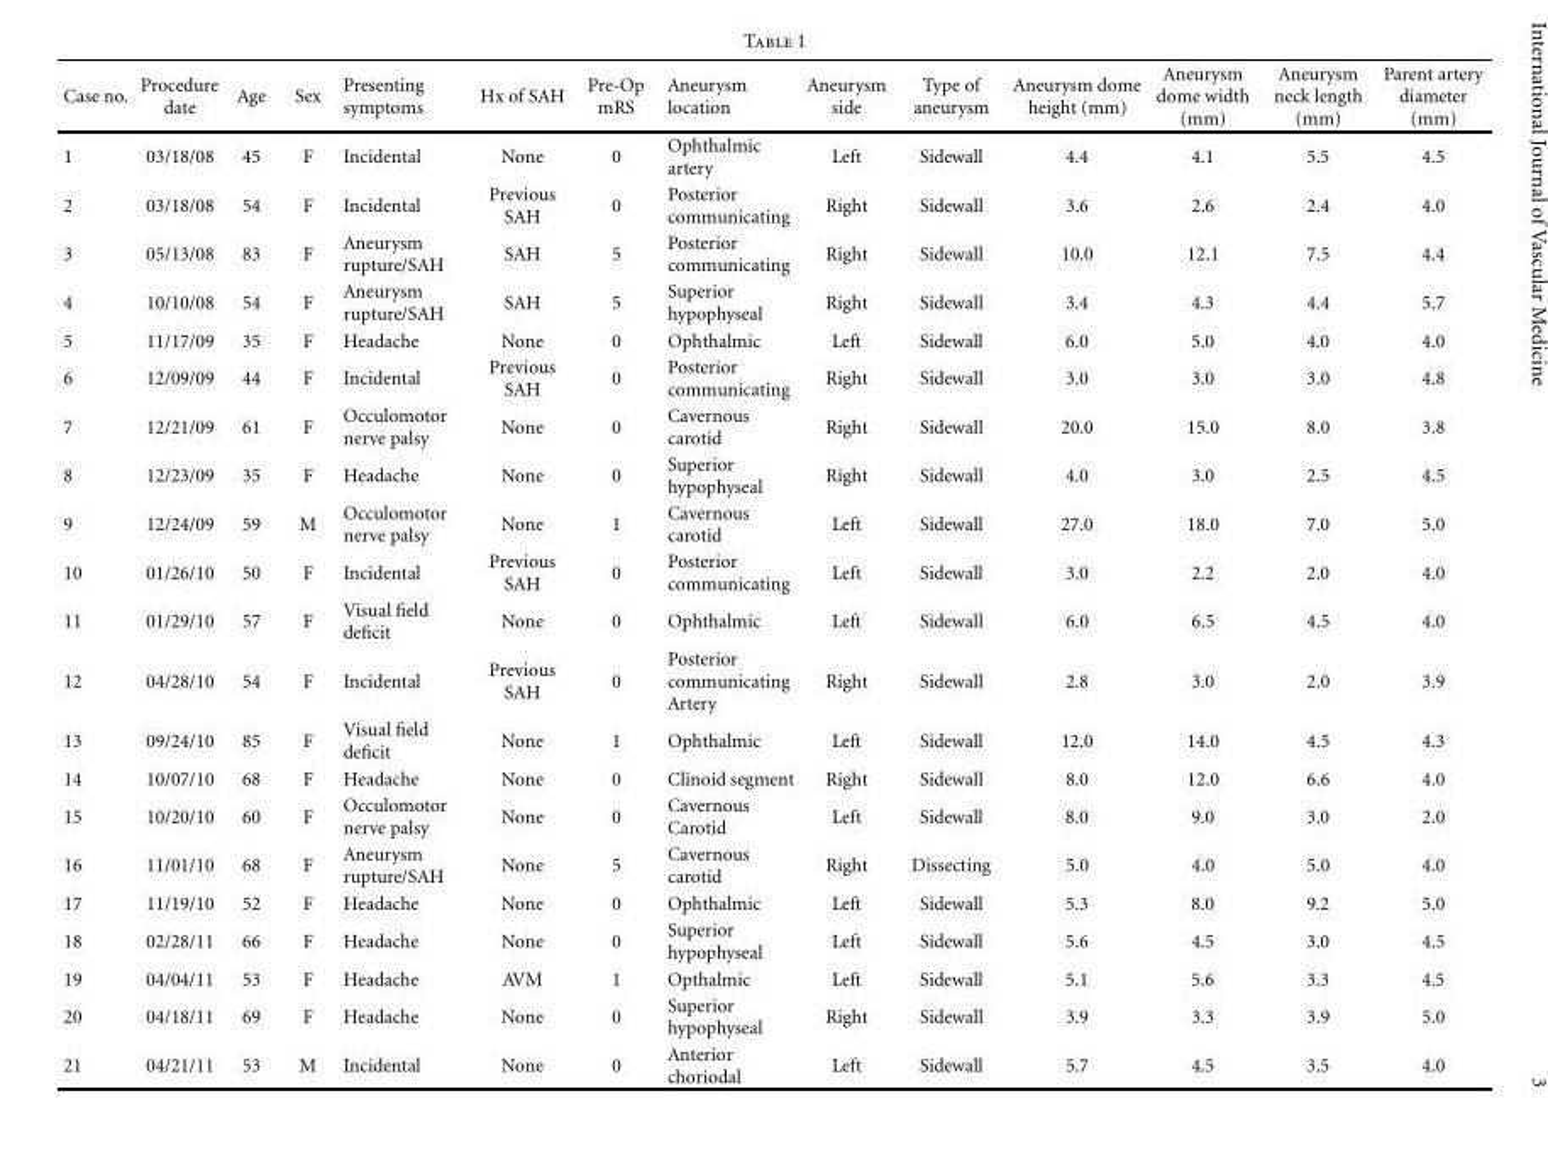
<table><thead><tr><td>Case no.</td><td>Procedure date</td><td>Age</td><td>Sex</td><td>Presenting symptoms</td><td>Hx of SAH</td><td>Pre-Op mRS</td><td>Aneurysm location</td><td>Aneurysm side</td><td>Type of aneurysm</td><td>Aneurysm dome height (mm)</td><td>Aneurysm dome width (mm)</td><td>Aneurysm neck length (mm)</td><td>Parent artery diameter (mm)</td></tr></thead><tbody><tr><td>1</td><td>03/18/08</td><td>45</td><td>F</td><td>Incidental</td><td>None</td><td>0</td><td>Ophthalmic artery</td><td>Left</td><td>Sidewall</td><td>4.4</td><td>4.1</td><td>5.5</td><td>4.5</td></tr><tr><td>2</td><td>03/18/08</td><td>54</td><td>F</td><td>Incidental</td><td>Previous SAH</td><td>0</td><td>Posterior communicating</td><td>Right</td><td>Sidewall</td><td>3.6</td><td>2.6</td><td>2.4</td><td>4.0</td></tr><tr><td>3</td><td>05/13/08</td><td>83</td><td>F</td><td>Aneurysm rupture/SAH</td><td>SAH</td><td>5</td><td>Posterior communicating</td><td>Right</td><td>Sidewall</td><td>10.0</td><td>12.1</td><td>7.5</td><td>4.4</td></tr><tr><td>4</td><td>10/10/08</td><td>54</td><td>F</td><td>Aneurysm rupture/SAH</td><td>SAH</td><td>5</td><td>Superior hypophyseal</td><td>Right</td><td>Sidewall</td><td>3.4</td><td>4.3</td><td>4.4</td><td>5.7</td></tr><tr><td>5</td><td>11/17/09</td><td>35</td><td>F</td><td>Headache</td><td>None</td><td>0</td><td>Ophthalmic</td><td>Left</td><td>Sidewall</td><td>6.0</td><td>5.0</td><td>4.0</td><td>4.0</td></tr><tr><td>6</td><td>12/09/09</td><td>44</td><td>F</td><td>Incidental</td><td>Previous SAH</td><td>0</td><td>Posterior communicating</td><td>Right</td><td>Sidewall</td><td>3.0</td><td>3.0</td><td>3.0</td><td>4.8</td></tr><tr><td>7</td><td>12/21/09</td><td>61</td><td>F</td><td>Occulomotor nerve palsy</td><td>None</td><td>0</td><td>Cavernous carotid</td><td>Right</td><td>Sidewall</td><td>20.0</td><td>15.0</td><td>8.0</td><td>3.8</td></tr><tr><td>8</td><td>12/23/09</td><td>35</td><td>F</td><td>Headache</td><td>None</td><td>0</td><td>Superior hypophyseal</td><td>Right</td><td>Sidewall</td><td>4.0</td><td>3.0</td><td>2.5</td><td>4.5</td></tr><tr><td>9</td><td>12/24/09</td><td>59</td><td>M</td><td>Occulomotor nerve palsy</td><td>None</td><td>1</td><td>Cavernous carotid</td><td>Left</td><td>Sidewall</td><td>27.0</td><td>18.0</td><td>7.0</td><td>5.0</td></tr><tr><td>10</td><td>01/26/10</td><td>50</td><td>F</td><td>Incidental</td><td>Previous SAH</td><td>0</td><td>Posterior communicating</td><td>Left</td><td>Sidewall</td><td>3.0</td><td>2.2</td><td>2.0</td><td>4.0</td></tr><tr><td>11</td><td>01/29/10</td><td>57</td><td>F</td><td>Visual field deficit</td><td>None</td><td>0</td><td>Ophthalmic</td><td>Left</td><td>Sidewall</td><td>6.0</td><td>6.5</td><td>4.5</td><td>4.0</td></tr><tr><td>12</td><td>04/28/10</td><td>54</td><td>F</td><td>Incidental</td><td>Previous SAH</td><td>0</td><td>Posterior communicating Artery</td><td>Right</td><td>Sidewall</td><td>2.8</td><td>3.0</td><td>2.0</td><td>3.9</td></tr><tr><td>13</td><td>09/24/10</td><td>85</td><td>F</td><td>Visual field deficit</td><td>None</td><td>1</td><td>Ophthalmic</td><td>Left</td><td>Sidewall</td><td>12.0</td><td>14.0</td><td>4.5</td><td>4.3</td></tr><tr><td>14</td><td>10/07/10</td><td>68</td><td>F</td><td>Headache</td><td>None</td><td>0</td><td>Clinoid segment</td><td>Right</td><td>Sidewall</td><td>8.0</td><td>12.0</td><td>6.6</td><td>4.0</td></tr><tr><td>15</td><td>10/20/10</td><td>60</td><td>F</td><td>Occulomotor nerve palsy</td><td>None</td><td>0</td><td>Cavernous Carotid</td><td>Left</td><td>Sidewall</td><td>8.0</td><td>9.0</td><td>3.0</td><td>2.0</td></tr><tr><td>16</td><td>11/01/10</td><td>68</td><td>F</td><td>Aneurysm rupture/SAH</td><td>None</td><td>5</td><td>Cavernous carotid</td><td>Right</td><td>Dissecting</td><td>5.0</td><td>4.0</td><td>5.0</td><td>4.0</td></tr><tr><td>17</td><td>11/19/10</td><td>52</td><td>F</td><td>Headache</td><td>None</td><td>0</td><td>Ophthalmic</td><td>Left</td><td>Sidewall</td><td>5.3</td><td>8.0</td><td>9.2</td><td>5.0</td></tr><tr><td>18</td><td>02/28/11</td><td>66</td><td>F</td><td>Headache</td><td>None</td><td>0</td><td>Superior hypophyseal</td><td>Left</td><td>Sidewall</td><td>5.6</td><td>4.5</td><td>3.0</td><td>4.5</td></tr><tr><td>19</td><td>04/04/11</td><td>53</td><td>F</td><td>Headache</td><td>AVM</td><td>1</td><td>Opthalmic</td><td>Left</td><td>Sidewall</td><td>5.1</td><td>5.6</td><td>3.3</td><td>4.5</td></tr><tr><td>20</td><td>04/18/11</td><td>69</td><td>F</td><td>Headache</td><td>None</td><td>0</td><td>Superior hypophyseal</td><td>Right</td><td>Sidewall</td><td>3.9</td><td>3.3</td><td>3.9</td><td>5.0</td></tr><tr><td>21</td><td>04/21/11</td><td>53</td><td>M</td><td>Incidental</td><td>None</td><td>0</td><td>Anterior choriodal</td><td>Left</td><td>Sidewall</td><td>5.7</td><td>4.5</td><td>3.5</td><td>4.0</td></tr></tbody></table>